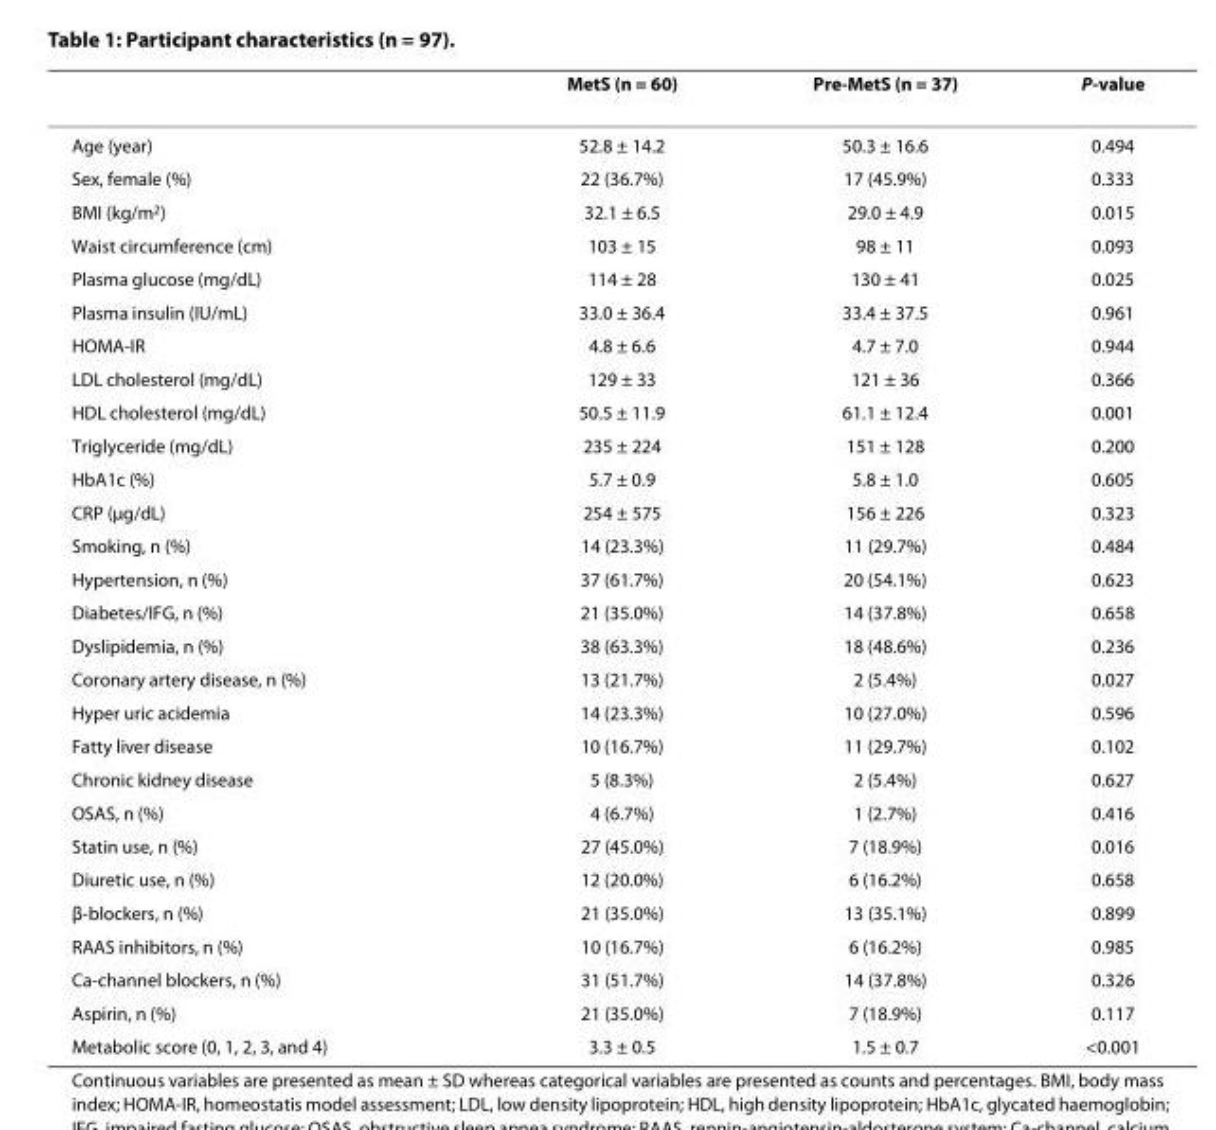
<table><thead><tr><td></td><td>MetS (n = 60)</td><td>Pre-MetS (n = 37)</td><td>P-value</td></tr></thead><tbody><tr><td>Age (year)</td><td>52.8 ± 14.2</td><td>50.3 ± 16.6</td><td>0.494</td></tr><tr><td>Sex, female (%)</td><td>22 (36.7%)</td><td>17 (45.9%)</td><td>0.333</td></tr><tr><td>BMI (kg/m<sup>2</sup>)</td><td>32.1 ± 6.5</td><td>29.0 ± 4.9</td><td>0.015</td></tr><tr><td>Waist circumference (cm)</td><td>103 ± 15</td><td>98 ± 11</td><td>0.093</td></tr><tr><td>Plasma glucose (mg/dL)</td><td>114 ± 28</td><td>130 ± 41</td><td>0.025</td></tr><tr><td>Plasma insulin (IU/mL)</td><td>33.0 ± 36.4</td><td>33.4 ± 37.5</td><td>0.961</td></tr><tr><td>HOMA-IR</td><td>4.8 ± 6.6</td><td>4.7 ± 7.0</td><td>0.944</td></tr><tr><td>LDL cholesterol (mg/dL)</td><td>129 ± 33</td><td>121 ± 36</td><td>0.366</td></tr><tr><td>HDL cholesterol (mg/dL)</td><td>50.5 ± 11.9</td><td>61.1 ± 12.4</td><td>0.001</td></tr><tr><td>Triglyceride (mg/dL)</td><td>235 ± 224</td><td>151 ± 128</td><td>0.200</td></tr><tr><td>HbA1c (%)</td><td>5.7 ± 0.9</td><td>5.8 ± 1.0</td><td>0.605</td></tr><tr><td>CRP (μg/dL)</td><td>254 ± 575</td><td>156 ± 226</td><td>0.323</td></tr><tr><td>Smoking, n (%)</td><td>14 (23.3%)</td><td>11 (29.7%)</td><td>0.484</td></tr><tr><td>Hypertension, n (%)</td><td>37 (61.7%)</td><td>20 (54.1%)</td><td>0.623</td></tr><tr><td>Diabetes/IFG, n (%)</td><td>21 (35.0%)</td><td>14 (37.8%)</td><td>0.658</td></tr><tr><td>Dyslipidemia, n (%)</td><td>38 (63.3%)</td><td>18 (48.6%)</td><td>0.236</td></tr><tr><td>Coronary artery disease, n (%)</td><td>13 (21.7%)</td><td>2 (5.4%)</td><td>0.027</td></tr><tr><td>Hyper uric acidemia</td><td>14 (23.3%)</td><td>10 (27.0%)</td><td>0.596</td></tr><tr><td>Fatty liver disease</td><td>10 (16.7%)</td><td>11 (29.7%)</td><td>0.102</td></tr><tr><td>Chronic kidney disease</td><td>5 (8.3%)</td><td>2 (5.4%)</td><td>0.627</td></tr><tr><td>OSAS, n (%)</td><td>4 (6.7%)</td><td>1 (2.7%)</td><td>0.416</td></tr><tr><td>Statin use, n (%)</td><td>27 (45.0%)</td><td>7 (18.9%)</td><td>0.016</td></tr><tr><td>Diuretic use, n (%)</td><td>12 (20.0%)</td><td>6 (16.2%)</td><td>0.658</td></tr><tr><td>β-blockers, n (%)</td><td>21 (35.0%)</td><td>13 (35.1%)</td><td>0.899</td></tr><tr><td>RAAS inhibitors, n (%)</td><td>10 (16.7%)</td><td>6 (16.2%)</td><td>0.985</td></tr><tr><td>Ca-channel blockers, n (%)</td><td>31 (51.7%)</td><td>14 (37.8%)</td><td>0.326</td></tr><tr><td>Aspirin, n (%)</td><td>21 (35.0%)</td><td>7 (18.9%)</td><td>0.117</td></tr><tr><td>Metabolic score (0, 1, 2, 3, and 4)</td><td>3.3 ± 0.5</td><td>1.5 ± 0.7</td><td>&lt;0.001</td></tr></tbody></table>